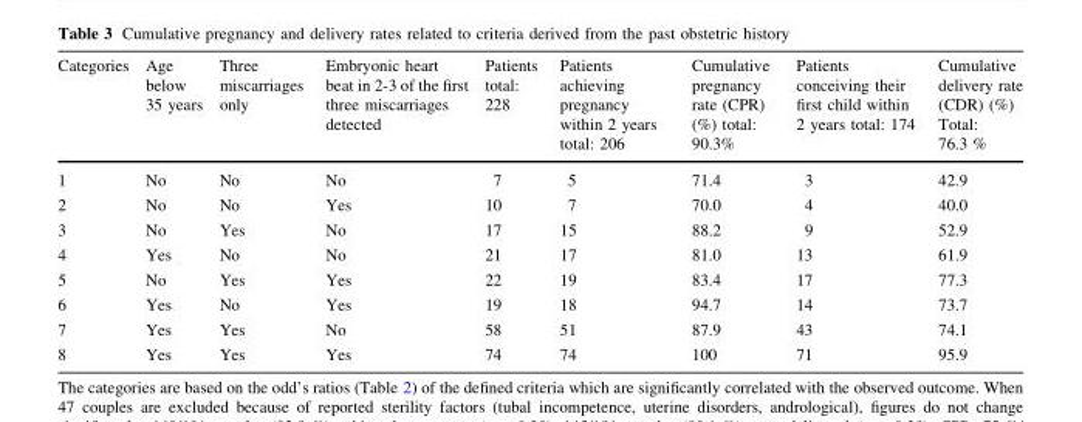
<table><thead><tr><td>Categories</td><td>Age below 35 years</td><td>Three miscarriages only</td><td>Embryonic heart beat in 2-3 of the first three miscarriages detected</td><td>Patients total: 228</td><td>Patients achieving pregnancy within 2 years total: 206</td><td>Cumulative pregnancy rate (CPR) (%) total: 90.3%</td><td>Patients conceiving their first child within 2 years total: 174</td><td>Cumulative delivery rate (CDR) (%) Total: 76.3 %</td></tr></thead><tbody><tr><td>1</td><td>No</td><td>No</td><td>No</td><td>7</td><td>5</td><td>71.4</td><td>3</td><td>42.9</td></tr><tr><td>2</td><td>No</td><td>No</td><td>Yes</td><td>10</td><td>7</td><td>70.0</td><td>4</td><td>40.0</td></tr><tr><td>3</td><td>No</td><td>Yes</td><td>No</td><td>17</td><td>15</td><td>88.2</td><td>9</td><td>52.9</td></tr><tr><td>4</td><td>Yes</td><td>No</td><td>No</td><td>21</td><td>17</td><td>81.0</td><td>13</td><td>61.9</td></tr><tr><td>5</td><td>No</td><td>Yes</td><td>Yes</td><td>22</td><td>19</td><td>83.4</td><td>17</td><td>77.3</td></tr><tr><td>6</td><td>Yes</td><td>No</td><td>Yes</td><td>19</td><td>18</td><td>94.7</td><td>14</td><td>73.7</td></tr><tr><td>7</td><td>Yes</td><td>Yes</td><td>No</td><td>58</td><td>51</td><td>87.9</td><td>43</td><td>74.1</td></tr><tr><td>8</td><td>Yes</td><td>Yes</td><td>Yes</td><td>74</td><td>74</td><td>100</td><td>71</td><td>95.9</td></tr></tbody></table>